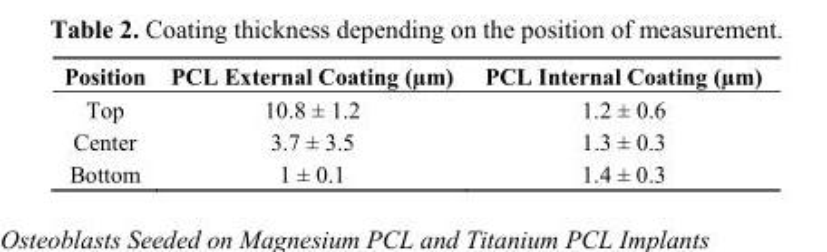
<table><thead><tr><td>Position</td><td>PCL External Coating (µm)</td><td>PCL Internal Coating (µm)</td></tr></thead><tbody><tr><td>Top</td><td>10.8 ± 1.2</td><td>1.2 ± 0.6</td></tr><tr><td>Center</td><td>3.7 ± 3.5</td><td>1.3 ± 0.3</td></tr><tr><td>Bottom</td><td>1 ± 0.1</td><td>1.4 ± 0.3</td></tr></tbody></table>